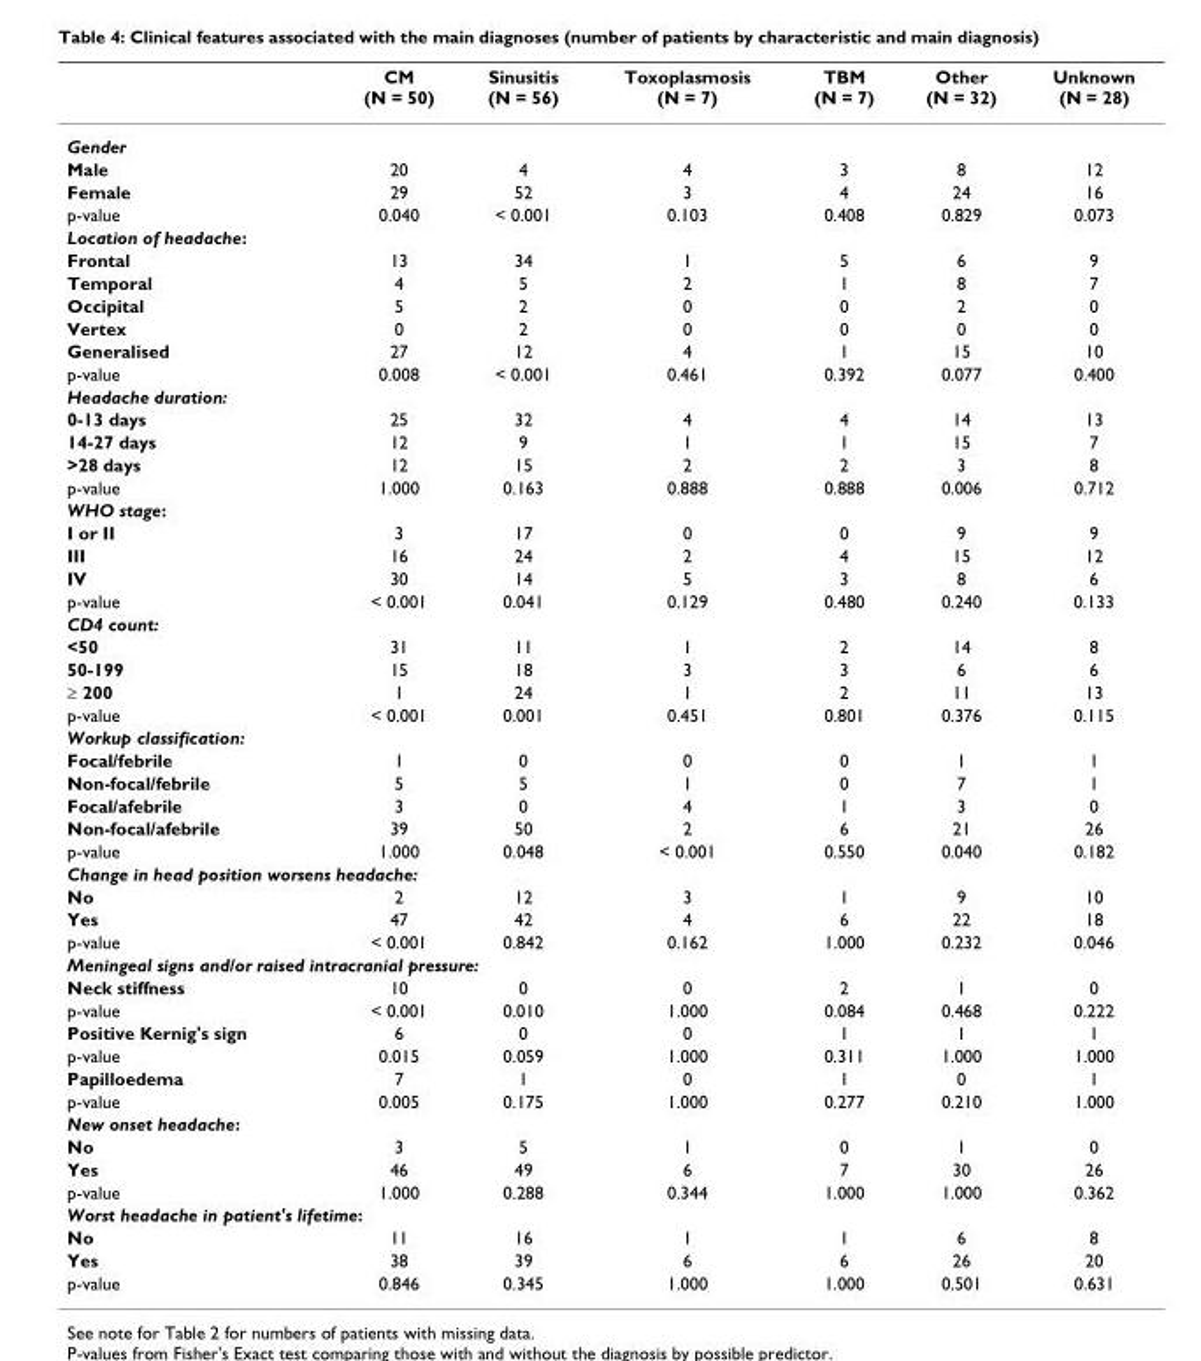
<table><thead><tr><td></td><td>CM (N = 50)</td><td>Sinusitis (N = 56)</td><td>Toxoplasmosis (N = 7)</td><td>TBM (N = 7)</td><td>Other (N = 32)</td><td>Unknown (N = 28)</td></tr></thead><tbody><tr><td colspan="7">Gender</td></tr><tr><td>Male</td><td>20</td><td>4</td><td>4</td><td>3</td><td>8</td><td>12</td></tr><tr><td>Female</td><td>29</td><td>52</td><td>3</td><td>4</td><td>24</td><td>16</td></tr><tr><td>p-value</td><td>0.040</td><td>&lt; 0.001</td><td>0.103</td><td>0.408</td><td>0.829</td><td>0.073</td></tr><tr><td colspan="7">Location of headache:</td></tr><tr><td>Frontal</td><td>13</td><td>34</td><td>1</td><td>5</td><td>6</td><td>9</td></tr><tr><td>Temporal</td><td>4</td><td>5</td><td>2</td><td>1</td><td>8</td><td>7</td></tr><tr><td>Occipital</td><td>5</td><td>2</td><td>0</td><td>0</td><td>2</td><td>0</td></tr><tr><td>Vertex</td><td>0</td><td>2</td><td>0</td><td>0</td><td>0</td><td>0</td></tr><tr><td>Generalised</td><td>27</td><td>12</td><td>4</td><td>1</td><td>15</td><td>10</td></tr><tr><td>p-value</td><td>0.008</td><td>&lt; 0.001</td><td>0.461</td><td>0.392</td><td>0.077</td><td>0.400</td></tr><tr><td colspan="7">Headache duration:</td></tr><tr><td>0-13 days</td><td>25</td><td>32</td><td>4</td><td>4</td><td>14</td><td>13</td></tr><tr><td>14-27 days</td><td>12</td><td>9</td><td>1</td><td>1</td><td>15</td><td>7</td></tr><tr><td>&gt;28 days</td><td>12</td><td>15</td><td>2</td><td>2</td><td>3</td><td>8</td></tr><tr><td>p-value</td><td>1.000</td><td>0.163</td><td>0.888</td><td>0.888</td><td>0.006</td><td>0.712</td></tr><tr><td colspan="7">WHO stage:</td></tr><tr><td>I or II</td><td>3</td><td>17</td><td>0</td><td>0</td><td>9</td><td>9</td></tr><tr><td>III</td><td>16</td><td>24</td><td>2</td><td>4</td><td>15</td><td>12</td></tr><tr><td>IV</td><td>30</td><td>14</td><td>5</td><td>3</td><td>8</td><td>6</td></tr><tr><td>p-value</td><td>&lt; 0.001</td><td>0.041</td><td>0.129</td><td>0.480</td><td>0.240</td><td>0.133</td></tr><tr><td colspan="7">CD4 count:</td></tr><tr><td>&lt;50</td><td>31</td><td>11</td><td>1</td><td>2</td><td>14</td><td>8</td></tr><tr><td>50-199</td><td>15</td><td>18</td><td>3</td><td>3</td><td>6</td><td>6</td></tr><tr><td>≥ 200</td><td>1</td><td>24</td><td>1</td><td>2</td><td>11</td><td>13</td></tr><tr><td>p-value</td><td>&lt; 0.001</td><td>0.001</td><td>0.451</td><td>0.801</td><td>0.376</td><td>0.115</td></tr><tr><td colspan="7">Workup classification:</td></tr><tr><td>Focal/febrile</td><td>1</td><td>0</td><td>0</td><td>0</td><td>1</td><td>1</td></tr><tr><td>Non-focal/febrile</td><td>5</td><td>5</td><td>1</td><td>0</td><td>7</td><td>1</td></tr><tr><td>Focal/afebrile</td><td>3</td><td>0</td><td>4</td><td>1</td><td>3</td><td>0</td></tr><tr><td>Non-focal/afebrile</td><td>39</td><td>50</td><td>2</td><td>6</td><td>21</td><td>26</td></tr><tr><td>p-value</td><td>1.000</td><td>0.048</td><td>&lt; 0.001</td><td>0.550</td><td>0.040</td><td>0.182</td></tr><tr><td colspan="7">Change in head position worsens headache:</td></tr><tr><td>No</td><td>2</td><td>12</td><td>3</td><td>1</td><td>9</td><td>10</td></tr><tr><td>Yes</td><td>47</td><td>42</td><td>4</td><td>6</td><td>22</td><td>18</td></tr><tr><td>p-value</td><td>&lt; 0.001</td><td>0.842</td><td>0.162</td><td>1.000</td><td>0.232</td><td>0.046</td></tr><tr><td colspan="7">Meningeal signs and/or raised intracranial pressure:</td></tr><tr><td>Neck stiffness</td><td>10</td><td>0</td><td>0</td><td>2</td><td>1</td><td>0</td></tr><tr><td>p-value</td><td>&lt; 0.001</td><td>0.010</td><td>1.000</td><td>0.084</td><td>0.468</td><td>0.222</td></tr><tr><td>Positive Kernig&#x27;s sign</td><td>6</td><td>0</td><td>0</td><td>1</td><td>1</td><td>1</td></tr><tr><td>p-value</td><td>0.015</td><td>0.059</td><td>1.000</td><td>0.311</td><td>1.000</td><td>1.000</td></tr><tr><td>Papilloedema</td><td>7</td><td>1</td><td>0</td><td>1</td><td>0</td><td>1</td></tr><tr><td>p-value</td><td>0.005</td><td>0.175</td><td>1.000</td><td>0.277</td><td>0.210</td><td>1.000</td></tr><tr><td colspan="7">New onset headache:</td></tr><tr><td>No</td><td>3</td><td>5</td><td>1</td><td>0</td><td>1</td><td>0</td></tr><tr><td>Yes</td><td>46</td><td>49</td><td>6</td><td>7</td><td>30</td><td>26</td></tr><tr><td>p-value</td><td>1.000</td><td>0.288</td><td>0.344</td><td>1.000</td><td>1.000</td><td>0.362</td></tr><tr><td colspan="7">Worst headache in patient&#x27;s lifetime:</td></tr><tr><td>No</td><td>11</td><td>16</td><td>1</td><td>1</td><td>6</td><td>8</td></tr><tr><td>Yes</td><td>38</td><td>39</td><td>6</td><td>6</td><td>26</td><td>20</td></tr><tr><td>p-value</td><td>0.846</td><td>0.345</td><td>1.000</td><td>1.000</td><td>0.501</td><td>0.631</td></tr></tbody></table>